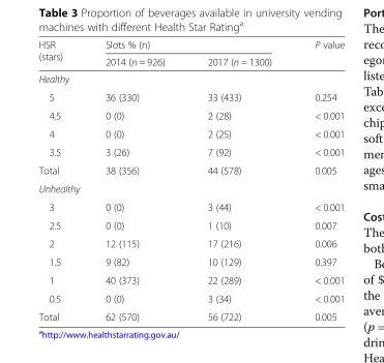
<table><thead><tr><td rowspan="2">HSR (stars)</td><td colspan="2">Slots % (n)</td><td rowspan="2">P value</td></tr><tr><td>2014 (n = 926)</td><td>2017 (n = 1300)</td></tr></thead><tbody><tr><td colspan="4">Healthy</td></tr><tr><td>5</td><td>36 (330)</td><td>33 (433)</td><td>0.254</td></tr><tr><td>4.5</td><td>0 (0)</td><td>2 (28)</td><td>&lt; 0.001</td></tr><tr><td>4</td><td>0 (0)</td><td>2 (25)</td><td>&lt; 0.001</td></tr><tr><td>3.5</td><td>3 (26)</td><td>7 (92)</td><td>&lt; 0.001</td></tr><tr><td>Total</td><td>38 (356)</td><td>44 (578)</td><td>0.005</td></tr><tr><td colspan="4">Unhealthy</td></tr><tr><td>3</td><td>0 (0)</td><td>3 (44)</td><td>&lt; 0.001</td></tr><tr><td>2.5</td><td>0 (0)</td><td>1 (10)</td><td>0.007</td></tr><tr><td>2</td><td>12 (115)</td><td>17 (216)</td><td>0.006</td></tr><tr><td>1.5</td><td>9 (82)</td><td>10 (129)</td><td>0.397</td></tr><tr><td>1</td><td>40 (373)</td><td>22 (289)</td><td>&lt; 0.001</td></tr><tr><td>0.5</td><td>0 (0)</td><td>3 (34)</td><td>&lt; 0.001</td></tr><tr><td>Total</td><td>62 (570)</td><td>56 (722)</td><td>0.005</td></tr></tbody></table>